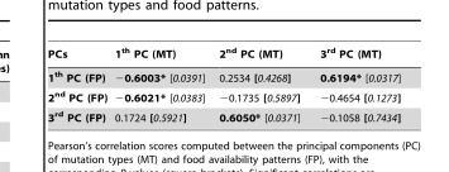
<table><thead><tr><td>PCs</td><td>1<sup>th</sup> PC (MT)</td><td>2<sup>nd</sup> PC (MT)</td><td>3<sup>rd</sup> PC (MT)</td></tr></thead><tbody><tr><td>1<sup>th</sup> PC (FP)</td><td>−0.6003* [0.0391]</td><td>0.2534 [0.4268]</td><td>0.6194* [0.0317]</td></tr><tr><td>2<sup>nd</sup> PC (FP)</td><td>−0.6021* [0.0383]</td><td>−0.1735 [0.5897]</td><td>−0.4654 [0.1273]</td></tr><tr><td>3<sup>rd</sup> PC (FP)</td><td>0.1724 [0.5921]</td><td>0.6050* [0.0371]</td><td>−0.1058 [0.7434]</td></tr></tbody></table>